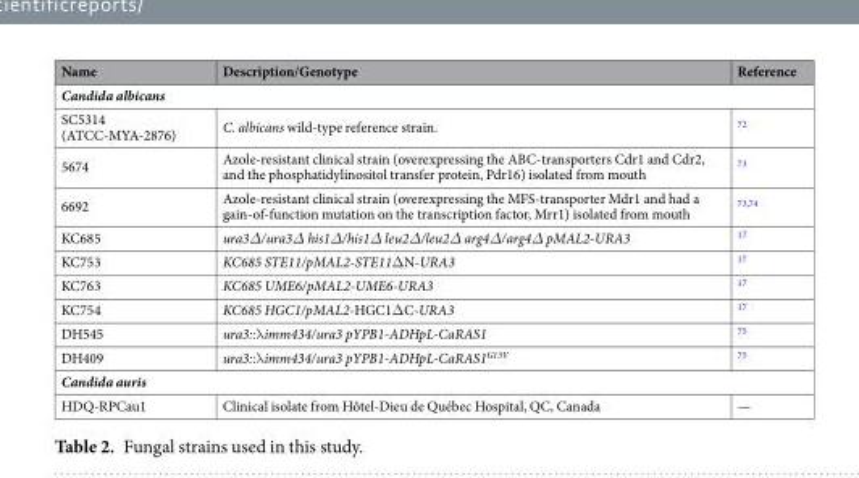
<table><thead><tr><td>Name</td><td>Description/Genotype</td><td>Reference</td></tr></thead><tbody><tr><td colspan="3">Candida albicans</td></tr><tr><td>SC5314 (ATCC-MYA-2876)</td><td>C. albicans wild-type reference strain.</td><td><sup>72</sup></td></tr><tr><td>5674</td><td>Azole-resistant clinical strain (overexpressing the ABC-transporters Cdr1 and Cdr2, and the phosphatidylinositol transfer protein, Pdr16) isolated from mouth</td><td><sup>73</sup></td></tr><tr><td>6692</td><td>Azole-resistant clinical strain (overexpressing the MFS-transporter Mdr1 and had a gain-of-function mutation on the transcription factor, Mrr1) isolated from mouth</td><td><sup>73,74</sup></td></tr><tr><td>KC685</td><td>ura3Δ/ura3Δ his1Δ/his1Δ leu2Δ/leu2Δ arg4Δ/arg4Δ pMAL2-URA3</td><td><sup>17</sup></td></tr><tr><td>KC753</td><td>KC685 STE11/pMAL2-STE11ΔN-URA3</td><td><sup>17</sup></td></tr><tr><td>KC763</td><td>KC685 UME6/pMAL2-UME6-URA3</td><td><sup>17</sup></td></tr><tr><td>KC754</td><td>KC685 HGC1/pMAL2-HGC1ΔC-URA3</td><td><sup>17</sup></td></tr><tr><td>DH545</td><td>ura3::λimm434/ura3 pYPB1-ADHpL-CaRAS1</td><td><sup>75</sup></td></tr><tr><td>DH409</td><td>ura3::λimm434/ura3 pYPB1-ADHpL-CaRAS1<sup>G13V</sup></td><td><sup>75</sup></td></tr><tr><td colspan="3">Candida auris</td></tr><tr><td>HDQ-RPCau1</td><td>Clinical isolate from Hôtel-Dieu de Québec Hospital, QC, Canada</td><td>—</td></tr></tbody></table>